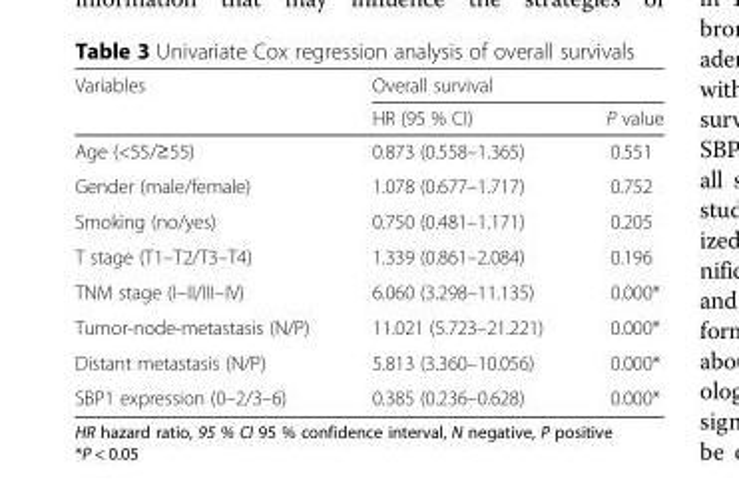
<table><thead><tr><td rowspan="2">Variables</td><td colspan="2">Overall survival</td></tr><tr><td>HR (95 % CI)</td><td>P value</td></tr></thead><tbody><tr><td>Age (&lt;55/≥55)</td><td>0.873 (0.558–1.365)</td><td>0.551</td></tr><tr><td>Gender (male/female)</td><td>1.078 (0.677–1.717)</td><td>0.752</td></tr><tr><td>Smoking (no/yes)</td><td>0.750 (0.481–1.171)</td><td>0.205</td></tr><tr><td>T stage (T1–T2/T3–T4)</td><td>1.339 (0.861–2.084)</td><td>0.196</td></tr><tr><td>TNM stage (I–II/III–IV)</td><td>6.060 (3.298–11.135)</td><td>0.000*</td></tr><tr><td>Tumor-node-metastasis (N/P)</td><td>11.021 (5.723–21.221)</td><td>0.000*</td></tr><tr><td>Distant metastasis (N/P)</td><td>5.813 (3.360–10.056)</td><td>0.000*</td></tr><tr><td>SBP1 expression (0–2/3–6)</td><td>0.385 (0.236–0.628)</td><td>0.000*</td></tr></tbody></table>